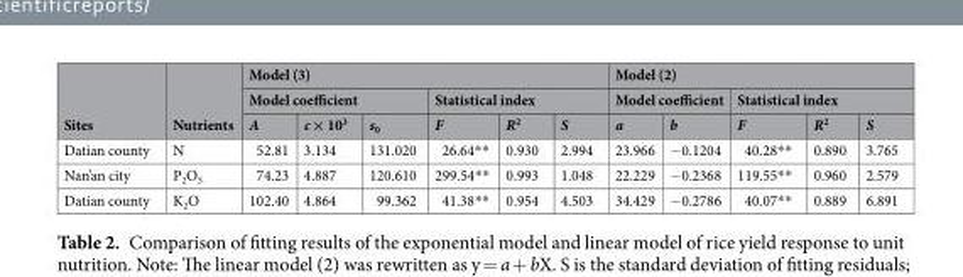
<table><thead><tr><td rowspan="3">Sites</td><td rowspan="3">Nutrients</td><td colspan="6">Model (3)</td><td colspan="5">Model (2)</td></tr><tr><td colspan="3">Model coefficient</td><td colspan="3">Statistical index</td><td colspan="2">Model coefficient</td><td colspan="3">Statistical index</td></tr><tr><td>A</td><td>c × 10<sup>3</sup></td><td>s<sub>0</sub></td><td>F</td><td>R<sup>2</sup></td><td>S</td><td>a</td><td>b</td><td>F</td><td>R<sup>2</sup></td><td>S</td></tr></thead><tbody><tr><td>Datian county</td><td>N</td><td>52.81</td><td>3.134</td><td>131.020</td><td>26.64**</td><td>0.930</td><td>2.994</td><td>23.966</td><td>−0.1204</td><td>40.28**</td><td>0.890</td><td>3.765</td></tr><tr><td>Nan’an city</td><td>P<sub>2</sub>O<sub>5</sub></td><td>74.23</td><td>4.887</td><td>120.610</td><td>299.54**</td><td>0.993</td><td>1.048</td><td>22.229</td><td>−0.2368</td><td>119.55**</td><td>0.960</td><td>2.579</td></tr><tr><td>Datian county</td><td>K<sub>2</sub>O</td><td>102.40</td><td>4.864</td><td>99.362</td><td>41.38**</td><td>0.954</td><td>4.503</td><td>34.429</td><td>−0.2786</td><td>40.07**</td><td>0.889</td><td>6.891</td></tr></tbody></table>